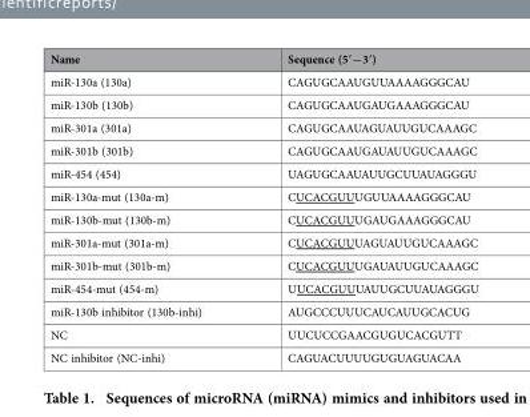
<table><thead><tr><td>Name</td><td>Sequence (5′−3′)</td></tr></thead><tbody><tr><td>miR-130a (130a)</td><td>CAGUGCAAUGUUAAAAGGGCAU</td></tr><tr><td>miR-130b (130b)</td><td>CAGUGCAAUGAUGAAAGGGCAU</td></tr><tr><td>miR-301a (301a)</td><td>CAGUGCAAUAGUAUUGUCAAAGC</td></tr><tr><td>miR-301b (301b)</td><td>CAGUGCAAUGAUAUUGUCAAAGC</td></tr><tr><td>miR-454 (454)</td><td>UAGUGCAAUAUUGCUUAUAGGGU</td></tr><tr><td>miR-130a-mut (130a-m)</td><td>CUCACGUUUGUUAAAAGGGCAU</td></tr><tr><td>miR-130b-mut (130b-m)</td><td>CUCACGUUUGAUGAAAGGGCAU</td></tr><tr><td>miR-301a-mut (301a-m)</td><td>CUCACGUUUAGUAUUGUCAAAGC</td></tr><tr><td>miR-301b-mut (301b-m)</td><td>CUCACGUUUGAUAUUGUCAAAGC</td></tr><tr><td>miR-454-mut (454-m)</td><td>UUCACGUUUAUUGCUUAUAGGGU</td></tr><tr><td>miR-130b inhibitor (130b-inhi)</td><td>AUGCCCUUUCAUCAUUGCACUG</td></tr><tr><td>NC</td><td>UUCUCCGAACGUGUCACGUTT</td></tr><tr><td>NC inhibitor (NC-inhi)</td><td>CAGUACUUUUGUGUAGUACAA</td></tr></tbody></table>